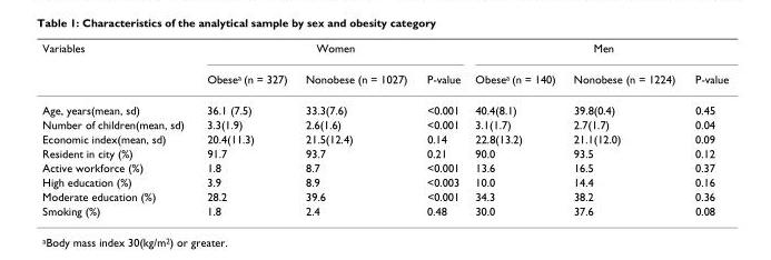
<table><thead><tr><td rowspan="2">Variables</td><td colspan="3">Women</td><td colspan="3">Men</td></tr><tr><td>Obese<sup>a</sup> (n = 327)</td><td>Nonobese (n = 1027)</td><td>P-value</td><td>Obese<sup>a</sup> (n = 140)</td><td>Nonobese (n = 1224)</td><td>P-value</td></tr></thead><tbody><tr><td>Age, years(mean, sd)</td><td>36.1 (7.5)</td><td>33.3(7.6)</td><td>&lt;0.001</td><td>40.4(8.1)</td><td>39.8(0.4)</td><td>0.45</td></tr><tr><td>Number of children(mean, sd)</td><td>3.3(1.9)</td><td>2.6(1.6)</td><td>&lt;0.001</td><td>3.1(1.7)</td><td>2.7(1.7)</td><td>0.04</td></tr><tr><td>Economic index(mean, sd)</td><td>20.4(11.3)</td><td>21.5(12.4)</td><td>0.14</td><td>22.8(13.2)</td><td>21.1(12.0)</td><td>0.09</td></tr><tr><td>Resident in city (%)</td><td>91.7</td><td>93.7</td><td>0.21</td><td>90.0</td><td>93.5</td><td>0.12</td></tr><tr><td>Active workforce (%)</td><td>1.8</td><td>8.7</td><td>&lt;0.001</td><td>13.6</td><td>16.5</td><td>0.37</td></tr><tr><td>High education (%)</td><td>3.9</td><td>8.9</td><td>&lt;0.003</td><td>10.0</td><td>14.4</td><td>0.16</td></tr><tr><td>Moderate education (%)</td><td>28.2</td><td>39.6</td><td>&lt;0.001</td><td>34.3</td><td>38.2</td><td>0.36</td></tr><tr><td>Smoking (%)</td><td>1.8</td><td>2.4</td><td>0.48</td><td>30.0</td><td>37.6</td><td>0.08</td></tr></tbody></table>